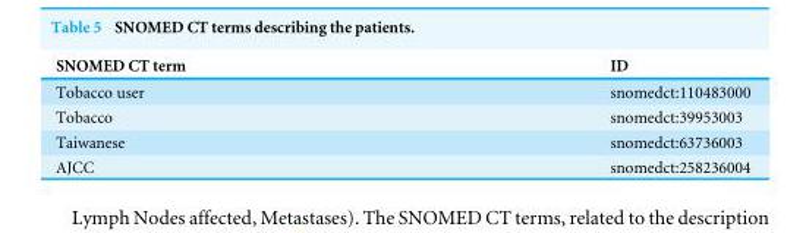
<table><thead><tr><td>SNOMED CT term</td><td>ID</td></tr></thead><tbody><tr><td>Tobacco user</td><td>snomedct:110483000</td></tr><tr><td>Tobacco</td><td>snomedct:39953003</td></tr><tr><td>Taiwanese</td><td>snomedct:63736003</td></tr><tr><td>AJCC</td><td>snomedct:258236004</td></tr></tbody></table>